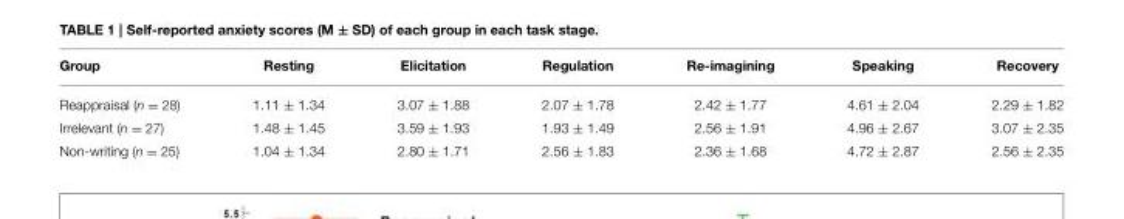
<table><thead><tr><td>Group</td><td>Resting</td><td>Elicitation</td><td>Regulation</td><td>Re-imagining</td><td>Speaking</td><td>Recovery</td></tr></thead><tbody><tr><td>Reappraisal (n = 28)</td><td>1.11 ± 1.34</td><td>3.07 ± 1.88</td><td>2.07 ± 1.78</td><td>2.42 ± 1.77</td><td>4.61 ± 2.04</td><td>2.29 ± 1.82</td></tr><tr><td>Irrelevant (n = 27)</td><td>1.48 ± 1.45</td><td>3.59 ± 1.93</td><td>1.93 ± 1.49</td><td>2.56 ± 1.91</td><td>4.96 ± 2.67</td><td>3.07 ± 2.35</td></tr><tr><td>Non-writing (n = 25)</td><td>1.04 ± 1.34</td><td>2.80 ± 1.71</td><td>2.56 ± 1.83</td><td>2.36 ± 1.68</td><td>4.72 ± 2.87</td><td>2.56 ± 2.35</td></tr></tbody></table>